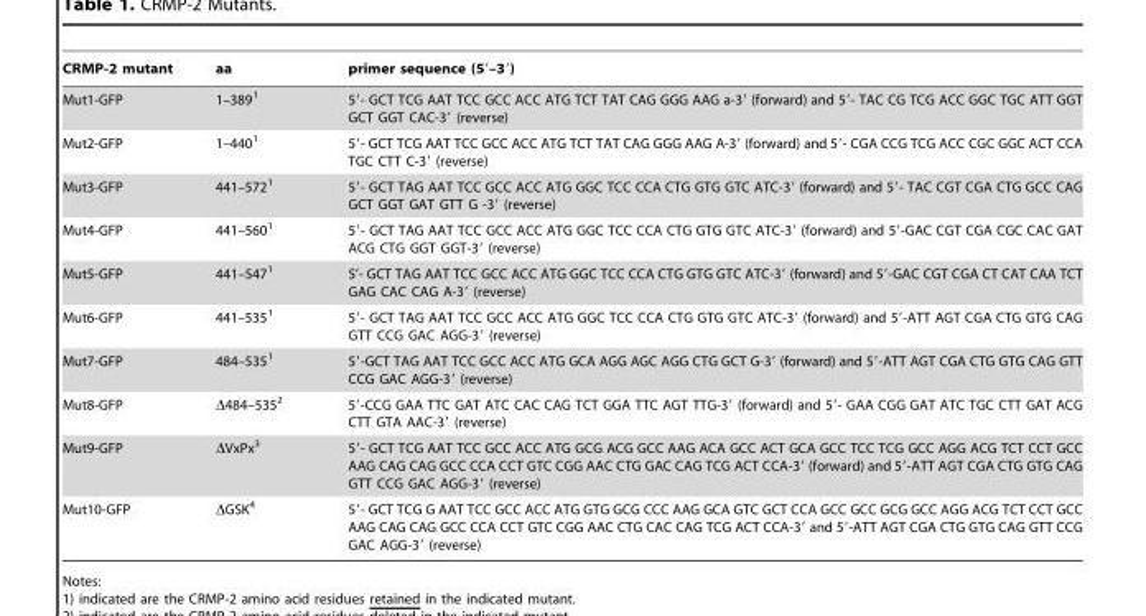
<table><thead><tr><td>CRMP-2 mutant</td><td>aa</td><td>primer sequence (5′–3′)</td></tr></thead><tbody><tr><td>Mut1-GFP</td><td>1–389<sup>1</sup></td><td>5′- GCT TCG AAT TCC GCC ACC ATG TCT TAT CAG GGG AAG a-3′ (forward) and 5′- TAC CG TCG ACC GGC TGC ATT GGT GCT GGT CAC-3′ (reverse)</td></tr><tr><td>Mut2-GFP</td><td>1–440<sup>1</sup></td><td>5′- GCT TCG AAT TCC GCC ACC ATG TCT TAT CAG GGG AAG A-3′ (forward) and 5′- CGA CCG TCG ACC CGC GGC ACT CCA TGC CTT C-3′ (reverse)</td></tr><tr><td>Mut3-GFP</td><td>441–572<sup>1</sup></td><td>5′- GCT TAG AAT TCC GCC ACC ATG GGC TCC CCA CTG GTG GTC ATC-3′ (forward) and 5′- TAC CGT CGA CTG GCC CAG GCT GGT GAT GTT G -3′ (reverse)</td></tr><tr><td>Mut4-GFP</td><td>441–560<sup>1</sup></td><td>5′- GCT TAG AAT TCC GCC ACC ATG GGC TCC CCA CTG GTG GTC ATC-3′ (forward) and 5′-GAC CGT CGA CGC CAC GAT ACG CTG GGT GGT-3′ (reverse)</td></tr><tr><td>Mut5-GFP</td><td>441–547<sup>1</sup></td><td>5’- GCT TAG AAT TCC GCC ACC ATG GGC TCC CCA CTG GTG GTC ATC-3′ (forward) and 5′-GAC CGT CGA CT CAT CAA TCT GAG CAC CAG A-3′ (reverse)</td></tr><tr><td>Mut6-GFP</td><td>441–535<sup>1</sup></td><td>5′- GCT TAG AAT TCC GCC ACC ATG GGC TCC CCA CTG GTG GTC ATC-3′ (forward) and 5′-ATT AGT CGA CTG GTG CAG GTT CCG GAC AGG-3′ (reverse)</td></tr><tr><td>Mut7-GFP</td><td>484–535<sup>1</sup></td><td>5′-GCT TAG AAT TCC GCC ACC ATG GCA AGG AGC AGG CTG GCT G-3′ (forward) and 5′-ATT AGT CGA CTG GTG CAG GTT CCG GAC AGG-3′ (reverse)</td></tr><tr><td>Mut8-GFP</td><td>Δ484–535<sup>2</sup></td><td>5′-CCG GAA TTC GAT ATC CAC CAG TCT GGA TTC AGT TTG-3′ (forward) and 5′- GAA CGG GAT ATC TGC CTT GAT ACG CTT GTA AAC-3′ (reverse)</td></tr><tr><td>Mut9-GFP</td><td>ΔVxPx<sup>3</sup></td><td>5′- GCT TCG AAT TCC GCC ACC ATG GCG ACG GCC AAG ACA GCC ACT GCA GCC TCC TCG GCC AGG ACG TCT CCT GCC AAG CAG CAG GCC CCA CCT GTC CGG AAC CTG GAC CAG TCG ACT CCA-3′ (forward) and 5′-ATT AGT CGA CTG GTG CAG GTT CCG GAC AGG-3′ (reverse)</td></tr><tr><td>Mut10-GFP</td><td>ΔGSK<sup>4</sup></td><td>5′- GCT TCG G AAT TCC GCC ACC ATG GTG GCG CCC AAG GCA GTC GCT CCA GCC GCC GCG GCC AGG ACG TCT CCT GCC AAG CAG CAG GCC CCA CCT GTC CGG AAC CTG CAC CAG TCG ACT CCA-3′ and 5′-ATT AGT CGA CTG GTG CAG GTT CCG GAC AGG-3′ (reverse)</td></tr></tbody></table>